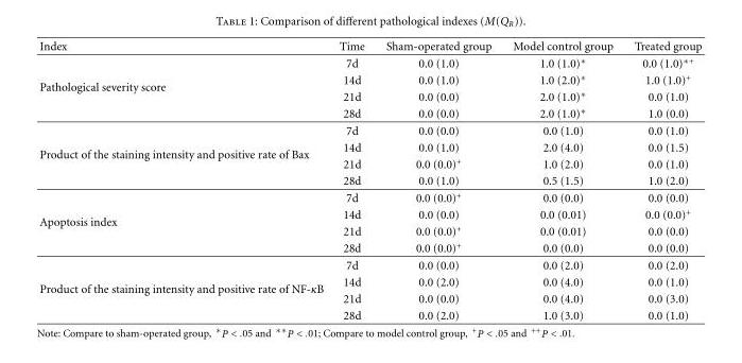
<table><thead><tr><td>Index</td><td>Time</td><td>Sham-operated group</td><td>Model control group</td><td>Treated group</td></tr></thead><tbody><tr><td rowspan="4">Pathological severity score</td><td>7d</td><td>0.0 (1.0)</td><td>1.0 (1.0)∗</td><td>0.0 (1.0)∗+</td></tr><tr><td>14d</td><td>0.0 (1.0)</td><td>1.0 (2.0)∗</td><td>1.0 (1.0)<sup>+</sup></td></tr><tr><td>21d</td><td>0.0 (0.0)</td><td>2.0 (1.0)∗</td><td>0.0 (1.0)</td></tr><tr><td>28d</td><td>0.0 (0.0)</td><td>2.0 (1.0)∗</td><td>1.0 (0.0)</td></tr><tr><td rowspan="4">Product of the staining intensity and positive rate of Bax</td><td>7d</td><td>0.0 (0.0)</td><td>0.0 (1.0)</td><td>0.0 (1.0)</td></tr><tr><td>14d</td><td>0.0 (1.0)</td><td>2.0 (4.0)</td><td>0.0 (1.5)</td></tr><tr><td>21d</td><td>0.0 (0.0)<sup>+</sup></td><td>1.0 (2.0)</td><td>0.0 (1.0)</td></tr><tr><td>28d</td><td>0.0 (1.0)</td><td>0.5 (1.5)</td><td>1.0 (2.0)</td></tr><tr><td rowspan="4">Apoptosis index</td><td>7d</td><td>0.0 (0.0)<sup>+</sup></td><td>0.0 (0.0)</td><td>0.0 (0.0)</td></tr><tr><td>14d</td><td>0.0 (0.0)</td><td>0.0 (0.01)</td><td>0.0 (0.0)<sup>+</sup></td></tr><tr><td>21d</td><td>0.0 (0.0)<sup>+</sup></td><td>0.0 (0.01)</td><td>0.0 (0.0)</td></tr><tr><td>28d</td><td>0.0 (0.0)<sup>+</sup></td><td>0.0 (0.0)</td><td>0.0 (0.0)</td></tr><tr><td rowspan="4">Product of the staining intensity and positive rate of NF-κB</td><td>7d</td><td>0.0 (0.0)</td><td>0.0 (2.0)</td><td>0.0 (2.0)</td></tr><tr><td>14d</td><td>0.0 (2.0)</td><td>0.0 (4.0)</td><td>0.0 (1.0)</td></tr><tr><td>21d</td><td>0.0 (0.0)</td><td>0.0 (4.0)</td><td>0.0 (3.0)</td></tr><tr><td>28d</td><td>0.0 (2.0)</td><td>1.0 (3.0)</td><td>0.0 (1.0)</td></tr></tbody></table>